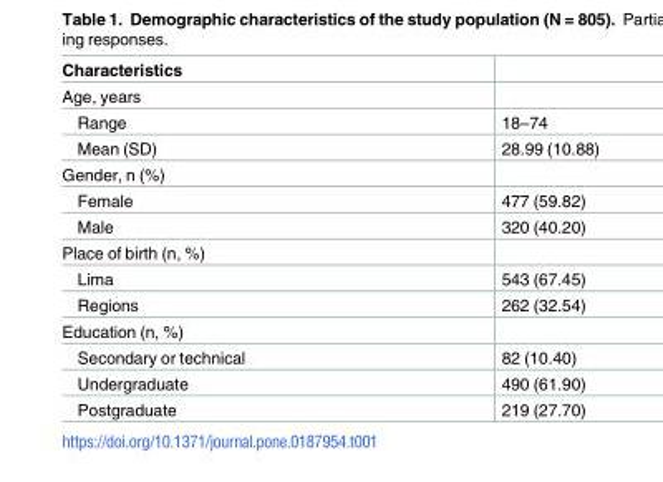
<table><thead><tr><td>Characteristics</td><td></td></tr></thead><tbody><tr><td colspan="2">Age, years</td></tr><tr><td>Range</td><td>18–74</td></tr><tr><td>Mean (SD)</td><td>28.99 (10.88)</td></tr><tr><td colspan="2">Gender, n (%)</td></tr><tr><td>Female</td><td>477 (59.82)</td></tr><tr><td>Male</td><td>320 (40.20)</td></tr><tr><td colspan="2">Place of birth (n, %)</td></tr><tr><td>Lima</td><td>543 (67.45)</td></tr><tr><td>Regions</td><td>262 (32.54)</td></tr><tr><td colspan="2">Education (n, %)</td></tr><tr><td>Secondary or technical</td><td>82 (10.40)</td></tr><tr><td>Undergraduate</td><td>490 (61.90)</td></tr><tr><td>Postgraduate</td><td>219 (27.70)</td></tr></tbody></table>